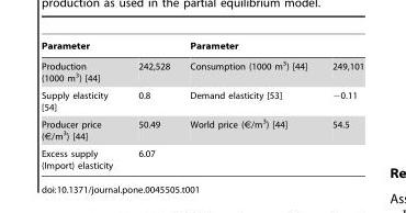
<table><thead><tr><td>Parameter</td><td></td><td>Parameter</td><td></td></tr></thead><tbody><tr><td>Production (1000 m<sup>3</sup>) [44]</td><td>242,528</td><td>Consumption (1000 m<sup>3</sup>) [44]</td><td>249,101</td></tr><tr><td>Supply elasticity [54]</td><td>0.8</td><td>Demand elasticity [53]</td><td>−0.11</td></tr><tr><td>Producer price (€/m<sup>3</sup>) [44]</td><td>50.49</td><td>World price (€/m<sup>3</sup>) [44]</td><td>54.5</td></tr><tr><td>Excess supply (Import) elasticity</td><td>6.07</td><td colspan="2"></td></tr></tbody></table>